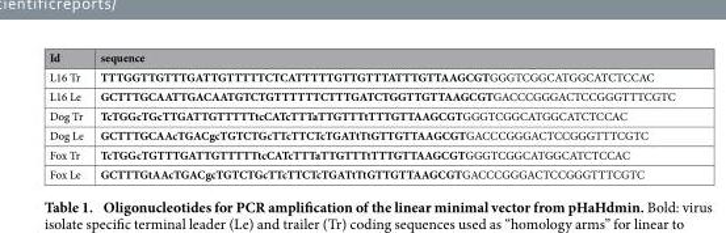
<table><thead><tr><td>Id</td><td>sequence</td></tr></thead><tbody><tr><td>L16 Tr</td><td>TTTGGTTGTTTGATTGTTTTTCTCATTTTTGTTGTTTATTTGTTAAGCGTGGGTCGGCATGGCATCTCCAC</td></tr><tr><td>L16 Le</td><td>GCTTTGCAATTGACAATGTCTGTTTTTTCTTTGATCTGGTTGTTAAGCGTGACCCGGGACTCCGGGTTTCGTC</td></tr><tr><td>Dog Tr</td><td>TcTGGcTGcTTGATTGTTTTTtcCATcTTTaTTGTTTtTTTGTTAAGCGTGGGTCGGCATGGCATCTCCAC</td></tr><tr><td>Dog Le</td><td>GCTTTGCAAcTGACgcTGTCTGcTTcTTCTcTGATtTtGTTGTTAAGCGTGACCCGGGACTCCGGGTTTCGTC</td></tr><tr><td>Fox Tr</td><td>TcTGGcTGTTTGATTGTTTTTtcCATcTTTaTTGTTTtTTTGTTAAGCGTGGGTCGGCATGGCATCTCCAC</td></tr><tr><td>Fox Le</td><td>GCTTTGtAAcTGACgcTGTCTGcTTcTTCTcTGATtTtGTTGTTAAGCGTGACCCGGGACTCCGGGTTTCGTC</td></tr></tbody></table>